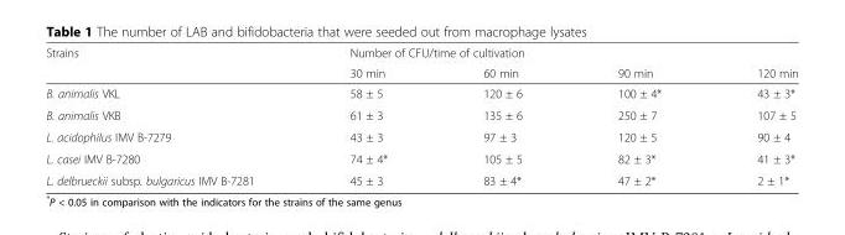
<table><thead><tr><td rowspan="2">Strains</td><td colspan="4">Number of CFU/time of cultivation</td></tr><tr><td>30 min</td><td>60 min</td><td>90 min</td><td>120 min</td></tr></thead><tbody><tr><td>B. animalis VKL</td><td>58 ± 5</td><td>120 ± 6</td><td>100 ± 4*</td><td>43 ± 3*</td></tr><tr><td>B. animalis VKB</td><td>61 ± 3</td><td>135 ± 6</td><td>250 ± 7</td><td>107 ± 5</td></tr><tr><td>L. acidophilus IMV В-7279</td><td>43 ± 3</td><td>97 ± 3</td><td>120 ± 5</td><td>90 ± 4</td></tr><tr><td>L. casei IMV В-7280</td><td>74 ± 4*</td><td>105 ± 5</td><td>82 ± 3*</td><td>41 ± 3*</td></tr><tr><td>L. delbruеckii subsp. bulgaricus IMV В-7281</td><td>45 ± 3</td><td>83 ± 4*</td><td>47 ± 2*</td><td>2 ± 1*</td></tr></tbody></table>